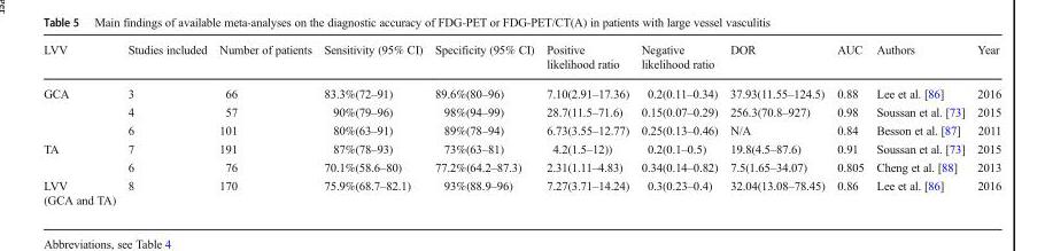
<table><thead><tr><td>LVV</td><td>Studies included</td><td>Number of patients</td><td>Sensitivity (95% CI)</td><td>Specificity (95% CI)</td><td>Positive likelihood ratio</td><td>Negative likelihood ratio</td><td>DOR</td><td>AUC</td><td>Authors</td><td>Year</td></tr></thead><tbody><tr><td rowspan="3">GCA</td><td>3</td><td>66</td><td>83.3%(72–91)</td><td>89.6%(80–96)</td><td>7.10(2.91–17.36)</td><td>0.2(0.11–0.34)</td><td>37.93(11.55–124.5)</td><td>0.88</td><td>Lee et al. [86]</td><td>2016</td></tr><tr><td>4</td><td>57</td><td>90%(79–96)</td><td>98%(94–99)</td><td>28.7(11.5–71.6)</td><td>0.15(0.07–0.29)</td><td>256.3(70.8–927)</td><td>0.98</td><td>Soussan et al. [73]</td><td>2015</td></tr><tr><td>6</td><td>101</td><td>80%(63–91)</td><td>89%(78–94)</td><td>6.73(3.55–12.77)</td><td>0.25(0.13–0.46)</td><td>N/A</td><td>0.84</td><td>Besson et al. [87]</td><td>2011</td></tr><tr><td rowspan="2">TA</td><td>7</td><td>191</td><td>87%(78–93)</td><td>73%(63–81)</td><td>4.2(1.5–12))</td><td>0.2(0.1–0.5)</td><td>19.8(4.5–87.6)</td><td>0.91</td><td>Soussan et al. [73]</td><td>2015</td></tr><tr><td>6</td><td>76</td><td>70.1%(58.6–80)</td><td>77.2%(64.2–87.3)</td><td>2.31(1.11–4.83)</td><td>0.34(0.14–0.82)</td><td>7.5(1.65–34.07)</td><td>0.805</td><td>Cheng et al. [88]</td><td>2013</td></tr><tr><td>LVV (GCA and TA)</td><td>8</td><td>170</td><td>75.9%(68.7–82.1)</td><td>93%(88.9–96)</td><td>7.27(3.71–14.24)</td><td>0.3(0.23–0.4)</td><td>32.04(13.08–78.45)</td><td>0.86</td><td>Lee et al. [86]</td><td>2016</td></tr></tbody></table>